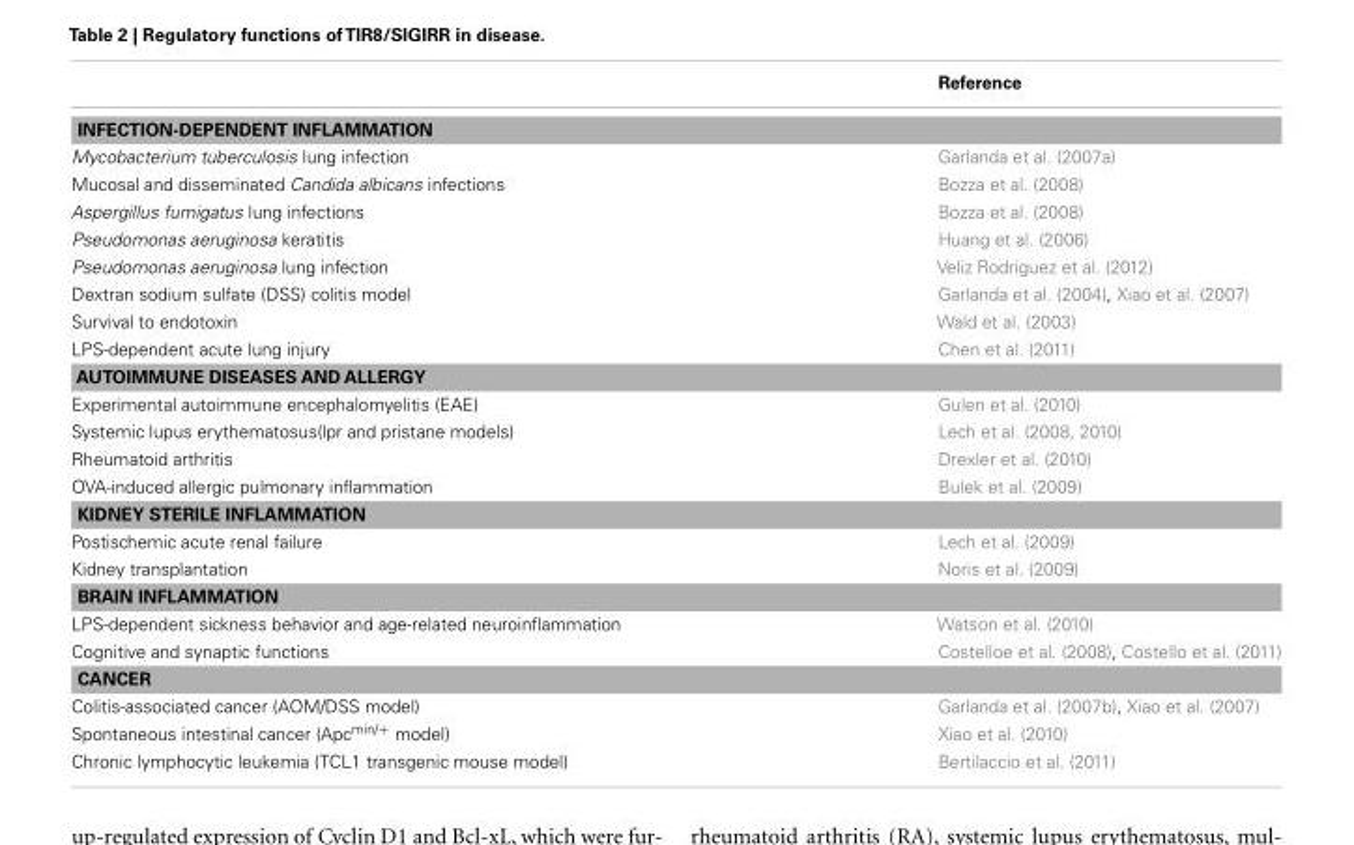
<table><thead><tr><td></td><td>Reference</td></tr></thead><tbody><tr><td colspan="2">INFECTION-DEPENDENT INFLAMMATION</td></tr><tr><td>Mycobacterium tuberculosis lung infection</td><td>Garlanda et al. (2007a)</td></tr><tr><td>Mucosal and disseminated Candida albicans infections</td><td>Bozza et al. (2008)</td></tr><tr><td>Aspergillus fumigatus lung infections</td><td>Bozza et al. (2008)</td></tr><tr><td>Pseudomonas aeruginosa keratitis</td><td>Huang et al. (2006)</td></tr><tr><td>Pseudomonas aeruginosa lung infection</td><td>Veliz Rodriguez et al. (2012)</td></tr><tr><td>Dextran sodium sulfate (DSS) colitis model</td><td>Garlanda et al. (2004), Xiao et al. (2007)</td></tr><tr><td>Survival to endotoxin</td><td>Wald et al. (2003)</td></tr><tr><td>LPS-dependent acute lung injury</td><td>Chen et al. (2011)</td></tr><tr><td colspan="2">AUTOIMMUNE DISEASES AND ALLERGY</td></tr><tr><td>Experimental autoimmune encephalomyelitis (EAE)</td><td>Gulen et al. (2010)</td></tr><tr><td>Systemic lupus erythematosus(lpr and pristane models)</td><td>Lech et al. (2008, 2010)</td></tr><tr><td>Rheumatoid arthritis</td><td>Drexler et al. (2010)</td></tr><tr><td>OVA-induced allergic pulmonary inflammation</td><td>Bulek et al. (2009)</td></tr><tr><td colspan="2">KIDNEY STERILE INFLAMMATION</td></tr><tr><td>Postischemic acute renal failure</td><td>Lech et al. (2009)</td></tr><tr><td>Kidney transplantation</td><td>Noris et al. (2009)</td></tr><tr><td colspan="2">BRAIN INFLAMMATION</td></tr><tr><td>LPS-dependent sickness behavior and age-related neuroinflammation</td><td>Watson et al. (2010)</td></tr><tr><td>Cognitive and synaptic functions</td><td>Costelloe et al. (2008), Costello et al. (2011)</td></tr><tr><td colspan="2">CANCER</td></tr><tr><td>Colitis-associated cancer (AOM/DSS model)</td><td>Garlanda et al. (2007b), Xiao et al. (2007)</td></tr><tr><td>Spontaneous intestinal cancer (Apc<sup>min/+</sup> model)</td><td>Xiao et al. (2010)</td></tr><tr><td>Chronic lymphocytic leukemia (TCL1 transgenic mouse model)</td><td>Bertilaccio et al. (2011)</td></tr></tbody></table>